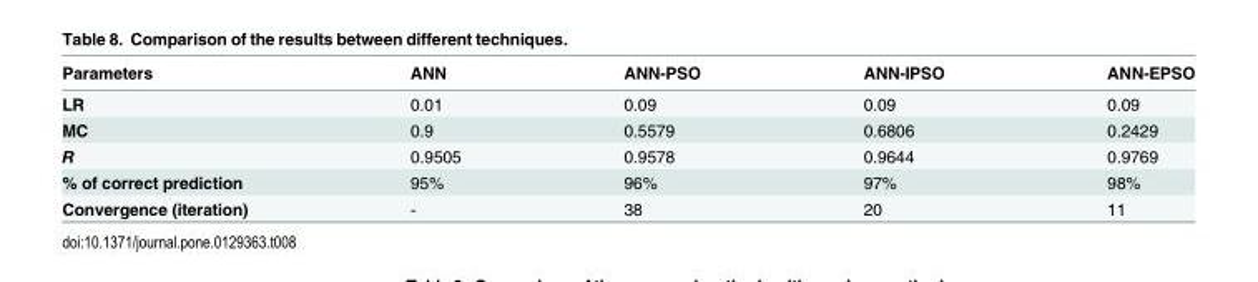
<table><thead><tr><td>Parameters</td><td>ANN</td><td>ANN-PSO</td><td>ANN-IPSO</td><td>ANN-EPSO</td></tr></thead><tbody><tr><td>LR</td><td>0.01</td><td>0.09</td><td>0.09</td><td>0.09</td></tr><tr><td>MC</td><td>0.9</td><td>0.5579</td><td>0.6806</td><td>0.2429</td></tr><tr><td>R</td><td>0.9505</td><td>0.9578</td><td>0.9644</td><td>0.9769</td></tr><tr><td>% of correct prediction</td><td>95%</td><td>96%</td><td>97%</td><td>98%</td></tr><tr><td>Convergence (iteration)</td><td>-</td><td>38</td><td>20</td><td>11</td></tr></tbody></table>